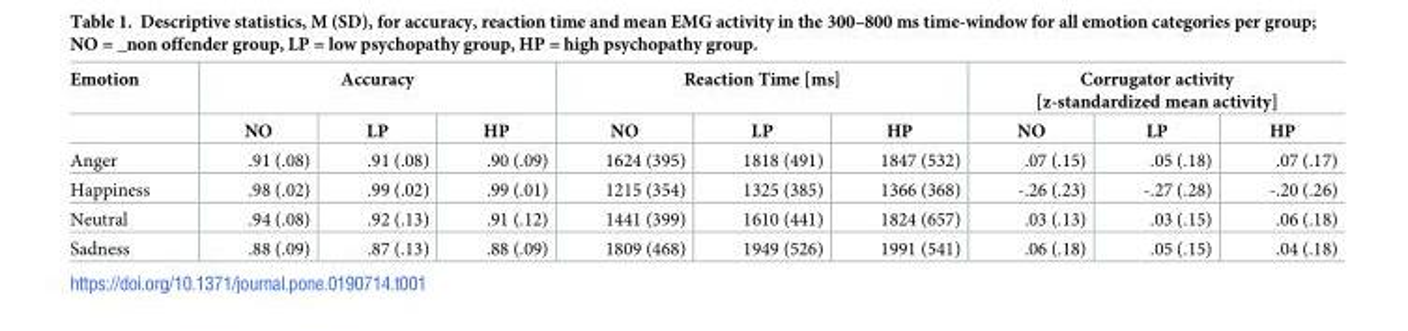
<table><thead><tr><td rowspan="2">Emotion</td><td colspan="3">Accuracy</td><td colspan="3">Reaction Time [ms]</td><td colspan="3">Corrugator activity [z-standardized mean activity]</td></tr><tr><td>NO</td><td>LP</td><td>HP</td><td>NO</td><td>LP</td><td>HP</td><td>NO</td><td>LP</td><td>HP</td></tr></thead><tbody><tr><td>Anger</td><td>.91 (.08)</td><td>.91 (.08)</td><td>.90 (.09)</td><td>1624 (395)</td><td>1818 (491)</td><td>1847 (532)</td><td>.07 (.15)</td><td>.05 (.18)</td><td>.07 (.17)</td></tr><tr><td>Happiness</td><td>.98 (.02)</td><td>.99 (.02)</td><td>.99 (.01)</td><td>1215 (354)</td><td>1325 (385)</td><td>1366 (368)</td><td>-.26 (.23)</td><td>-.27 (.28)</td><td>-.20 (.26)</td></tr><tr><td>Neutral</td><td>.94 (.08)</td><td>.92 (.13)</td><td>.91 (.12)</td><td>1441 (399)</td><td>1610 (441)</td><td>1824 (657)</td><td>.03 (.13)</td><td>.03 (.15)</td><td>.06 (.18)</td></tr><tr><td>Sadness</td><td>.88 (.09)</td><td>.87 (.13)</td><td>.88 (.09)</td><td>1809 (468)</td><td>1949 (526)</td><td>1991 (541)</td><td>.06 (.18)</td><td>.05 (.15)</td><td>.04 (.18)</td></tr></tbody></table>